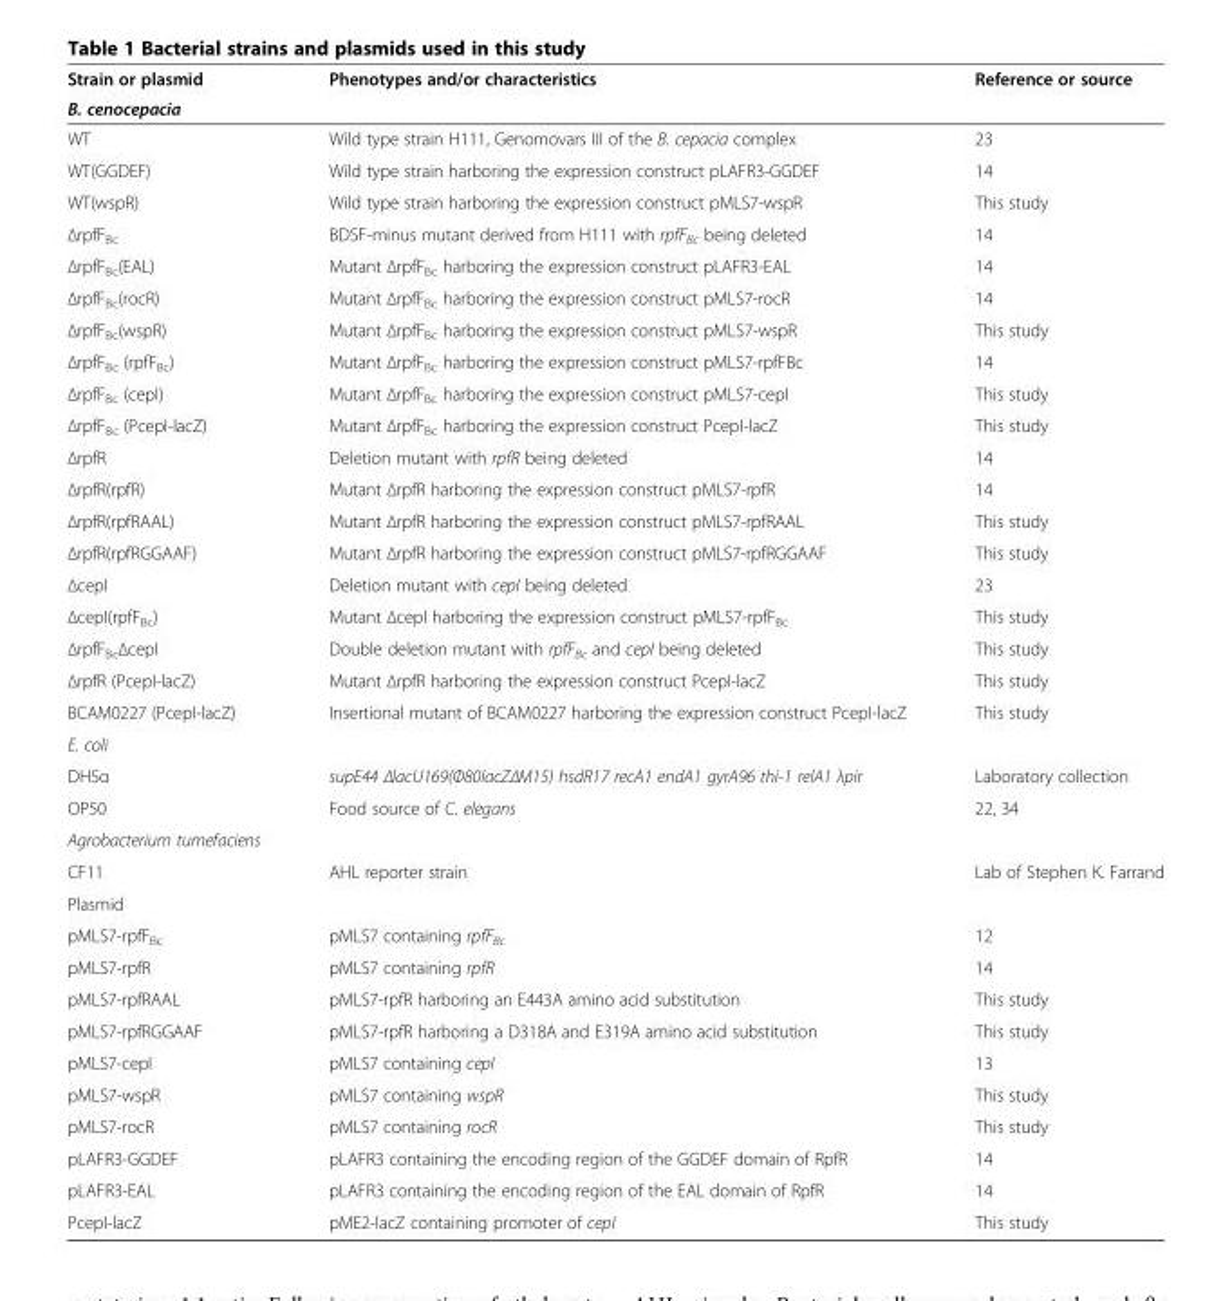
<table><thead><tr><td rowspan="2">Strain or plasmid B. cenocepacia</td><td rowspan="2">Phenotypes and/or characteristics</td><td rowspan="2">Reference or source</td></tr><tr></tr></thead><tbody><tr><td>WT</td><td>Wild type strain H111, Genomovars III of the B. cepacia complex</td><td>23</td></tr><tr><td>WT(GGDEF)</td><td>Wild type strain harboring the expression construct pLAFR3-GGDEF</td><td>14</td></tr><tr><td>WT(wspR)</td><td>Wild type strain harboring the expression construct pMLS7-wspR</td><td>This study</td></tr><tr><td>ΔrpfFBc</td><td>BDSF-minus mutant derived from H111 with rpfF<sub>Bc</sub> being deleted</td><td>14</td></tr><tr><td>ΔrpfFBc(EAL)</td><td>Mutant ΔrpfFBc harboring the expression construct pLAFR3-EAL</td><td>14</td></tr><tr><td>ΔrpfFBc(rocR)</td><td>Mutant ΔrpfFBc harboring the expression construct pMLS7-rocR</td><td>14</td></tr><tr><td>ΔrpfFBc(wspR)</td><td>Mutant ΔrpfFBc harboring the expression construct pMLS7-wspR</td><td>This study</td></tr><tr><td>ΔrpfFBc (rpfFBc)</td><td>Mutant ΔrpfFBc harboring the expression construct pMLS7-rpfFBc</td><td>14</td></tr><tr><td>ΔrpfFBc (cepI)</td><td>Mutant ΔrpfFBc harboring the expression construct pMLS7-cepI</td><td>This study</td></tr><tr><td>ΔrpfFBc (PcepI-lacZ)</td><td>Mutant ΔrpfFBc harboring the expression construct PcepI-lacZ</td><td>This study</td></tr><tr><td>ΔrpfR</td><td>Deletion mutant with rpfR being deleted</td><td>14</td></tr><tr><td>ΔrpfR(rpfR)</td><td>Mutant ΔrpfR harboring the expression construct pMLS7-rpfR</td><td>14</td></tr><tr><td>ΔrpfR(rpfRAAL)</td><td>Mutant ΔrpfR harboring the expression construct pMLS7-rpfRAAL</td><td>This study</td></tr><tr><td>ΔrpfR(rpfRGGAAF)</td><td>Mutant ΔrpfR harboring the expression construct pMLS7-rpfRGGAAF</td><td>This study</td></tr><tr><td>ΔcepI</td><td>Deletion mutant with cepI being deleted</td><td>23</td></tr><tr><td>ΔcepI(rpfFBc)</td><td>Mutant ΔcepI harboring the expression construct pMLS7-rpfFBc</td><td>This study</td></tr><tr><td>ΔrpfFBcΔcepI</td><td>Double deletion mutant with rpfF<sub>Bc</sub> and cepI being deleted</td><td>This study</td></tr><tr><td>ΔrpfR (PcepI-lacZ)</td><td>Mutant ΔrpfR harboring the expression construct PcepI-lacZ</td><td>This study</td></tr><tr><td>BCAM0227 (PcepI-lacZ)</td><td>Insertional mutant of BCAM0227 harboring the expression construct PcepI-lacZ</td><td>This study</td></tr><tr><td colspan="3">E. coli</td></tr><tr><td>DH5α</td><td>supE44 ΔlacU169(Φ80lacZΔM15) hsdR17 recA1 endA1 gyrA96 thi-1 relA1 λpir</td><td>Laboratory collection</td></tr><tr><td>OP50</td><td>Food source of C. elegans</td><td>22, 34</td></tr><tr><td colspan="3">Agrobacterium tumefaciens</td></tr><tr><td>CF11</td><td>AHL reporter strain</td><td>Lab of Stephen K. Farrand</td></tr><tr><td colspan="3">Plasmid</td></tr><tr><td>pMLS7-rpfF<sub>Bc</sub></td><td>pMLS7 containing rpfF<sub>Bc</sub></td><td>12</td></tr><tr><td>pMLS7-rpfR</td><td>pMLS7 containing rpfR</td><td>14</td></tr><tr><td>pMLS7-rpfRAAL</td><td>pMLS7-rpfR harboring an E443A amino acid substitution</td><td>This study</td></tr><tr><td>pMLS7-rpfRGGAAF</td><td>pMLS7-rpfR harboring a D318A and E319A amino acid substitution</td><td>This study</td></tr><tr><td>pMLS7-cepI</td><td>pMLS7 containing cepI</td><td>13</td></tr><tr><td>pMLS7-wspR</td><td>pMLS7 containing wspR</td><td>This study</td></tr><tr><td>pMLS7-rocR</td><td>pMLS7 containing rocR</td><td>This study</td></tr><tr><td>pLAFR3-GGDEF</td><td>pLAFR3 containing the encoding region of the GGDEF domain of RpfR</td><td>14</td></tr><tr><td>pLAFR3-EAL</td><td>pLAFR3 containing the encoding region of the EAL domain of RpfR</td><td>14</td></tr><tr><td>PcepI-lacZ</td><td>pME2-lacZ containing promoter of cepI</td><td>This study</td></tr></tbody></table>